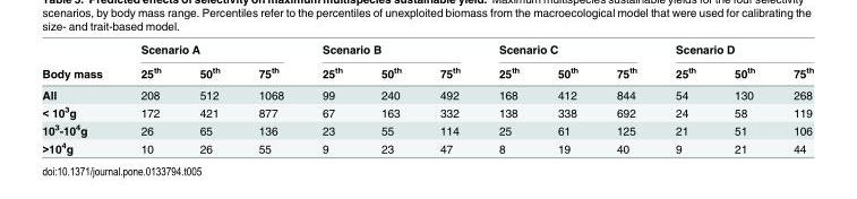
<table><thead><tr><td rowspan="2">Body mass</td><td colspan="3">Scenario A</td><td colspan="3">Scenario B</td><td colspan="3">Scenario C</td><td colspan="3">Scenario D</td></tr><tr><td>25<sup>th</sup></td><td>50<sup>th</sup></td><td>75<sup>th</sup></td><td>25<sup>th</sup></td><td>50<sup>th</sup></td><td>75<sup>th</sup></td><td>25<sup>th</sup></td><td>50<sup>th</sup></td><td>75<sup>th</sup></td><td>25<sup>th</sup></td><td>50<sup>th</sup></td><td>75<sup>th</sup></td></tr></thead><tbody><tr><td>All</td><td>208</td><td>512</td><td>1068</td><td>99</td><td>240</td><td>492</td><td>168</td><td>412</td><td>844</td><td>54</td><td>130</td><td>268</td></tr><tr><td>&lt; 10<sup>3</sup>g</td><td>172</td><td>421</td><td>877</td><td>67</td><td>163</td><td>332</td><td>138</td><td>338</td><td>692</td><td>24</td><td>58</td><td>119</td></tr><tr><td>10<sup>3</sup>-10<sup>4</sup>g</td><td>26</td><td>65</td><td>136</td><td>23</td><td>55</td><td>114</td><td>25</td><td>61</td><td>125</td><td>21</td><td>51</td><td>106</td></tr><tr><td>&gt;10<sup>4</sup>g</td><td>10</td><td>26</td><td>55</td><td>9</td><td>23</td><td>47</td><td>8</td><td>19</td><td>40</td><td>9</td><td>21</td><td>44</td></tr></tbody></table>